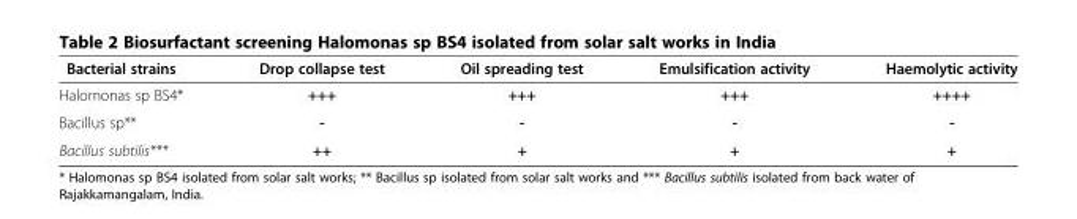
<table><thead><tr><td>Bacterial strains</td><td>Drop collapse test</td><td>Oil spreading test</td><td>Emulsification activity</td><td>Haemolytic activity</td></tr></thead><tbody><tr><td>Halomonas sp BS4*</td><td>+++</td><td>+++</td><td>+++</td><td>++++</td></tr><tr><td>Bacillus sp**</td><td>-</td><td>-</td><td>-</td><td>-</td></tr><tr><td>Bacillus subtilis***</td><td>++</td><td>+</td><td>+</td><td>+</td></tr></tbody></table>